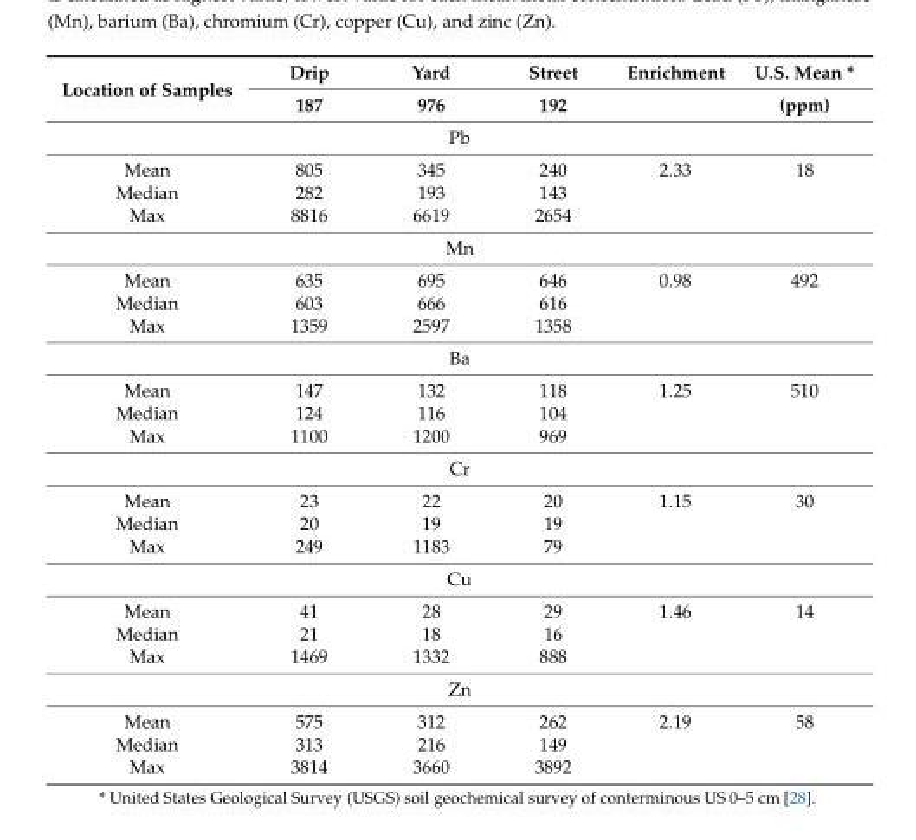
<table><thead><tr><td rowspan="2">Location of Samples</td><td rowspan="2">Drip 187</td><td rowspan="2">Yard 976</td><td rowspan="2">Street 192</td><td rowspan="2">Enrichment</td><td rowspan="2">U.S. Mean * (ppm)</td></tr><tr></tr></thead><tbody><tr><td colspan="6">Pb</td></tr><tr><td>Mean</td><td>805</td><td>345</td><td>240</td><td>2.33</td><td>18</td></tr><tr><td>Median</td><td>282</td><td>193</td><td>143</td><td></td><td></td></tr><tr><td>Max</td><td>8816</td><td>6619</td><td>2654</td><td></td><td></td></tr><tr><td colspan="6">Mn</td></tr><tr><td>Mean</td><td>635</td><td>695</td><td>646</td><td>0.98</td><td>492</td></tr><tr><td>Median</td><td>603</td><td>666</td><td>616</td><td></td><td></td></tr><tr><td>Max</td><td>1359</td><td>2597</td><td>1358</td><td></td><td></td></tr><tr><td colspan="6">Ba</td></tr><tr><td>Mean</td><td>147</td><td>132</td><td>118</td><td>1.25</td><td>510</td></tr><tr><td>Median</td><td>124</td><td>116</td><td>104</td><td></td><td></td></tr><tr><td>Max</td><td>1100</td><td>1200</td><td>969</td><td></td><td></td></tr><tr><td colspan="6">Cr</td></tr><tr><td>Mean</td><td>23</td><td>22</td><td>20</td><td>1.15</td><td>30</td></tr><tr><td>Median</td><td>20</td><td>19</td><td>19</td><td></td><td></td></tr><tr><td>Max</td><td>249</td><td>1183</td><td>79</td><td></td><td></td></tr><tr><td colspan="6">Cu</td></tr><tr><td>Mean</td><td>41</td><td>28</td><td>29</td><td>1.46</td><td>14</td></tr><tr><td>Median</td><td>21</td><td>18</td><td>16</td><td></td><td></td></tr><tr><td>Max</td><td>1469</td><td>1332</td><td>888</td><td></td><td></td></tr><tr><td colspan="6">Zn</td></tr><tr><td>Mean</td><td>575</td><td>312</td><td>262</td><td>2.19</td><td>58</td></tr><tr><td>Median</td><td>313</td><td>216</td><td>149</td><td></td><td></td></tr><tr><td>Max</td><td>3814</td><td>3660</td><td>3892</td><td></td><td></td></tr></tbody></table>